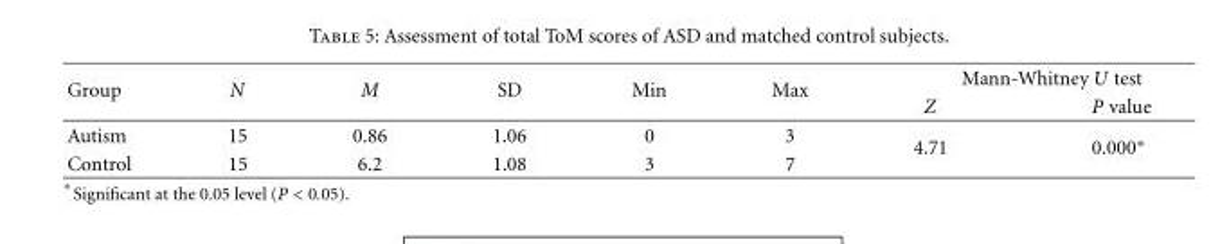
<table><thead><tr><td rowspan="2">Group</td><td rowspan="2">N</td><td rowspan="2">M</td><td rowspan="2">SD</td><td rowspan="2">Min</td><td rowspan="2">Max</td><td colspan="2">Mann-Whitney U test</td></tr><tr><td>Z</td><td>P value</td></tr></thead><tbody><tr><td>Autism</td><td>15</td><td>0.86</td><td>1.06</td><td>0</td><td>3</td><td rowspan="2">4.71</td><td rowspan="2">0.000∗</td></tr><tr><td>Control</td><td>15</td><td>6.2</td><td>1.08</td><td>3</td><td>7</td></tr></tbody></table>